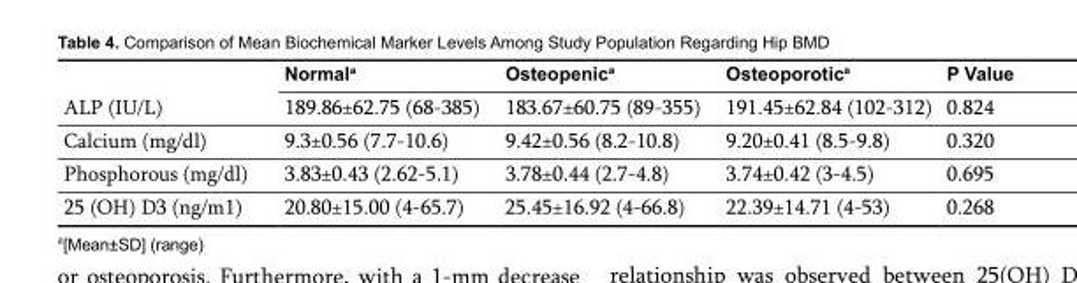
<table><thead><tr><td></td><td>Normal<sup>a</sup></td><td>Osteopenic<sup>a</sup></td><td>Osteoporotic<sup>a</sup></td><td>P Value</td></tr></thead><tbody><tr><td>ALP (IU/L)</td><td>189.86±62.75 (68-385)</td><td>183.67±60.75 (89-355)</td><td>191.45±62.84 (102-312)</td><td>0.824</td></tr><tr><td>Calcium (mg/dl)</td><td>9.3±0.56 (7.7-10.6)</td><td>9.42±0.56 (8.2-10.8)</td><td>9.20±0.41 (8.5-9.8)</td><td>0.320</td></tr><tr><td>Phosphorous (mg/dl)</td><td>3.83±0.43 (2.62-5.1)</td><td>3.78±0.44 (2.7-4.8)</td><td>3.74±0.42 (3-4.5)</td><td>0.695</td></tr><tr><td>25 (OH) D3 (ng/m1)</td><td>20.80±15.00 (4-65.7)</td><td>25.45±16.92 (4-66.8)</td><td>22.39±14.71 (4-53)</td><td>0.268</td></tr></tbody></table>